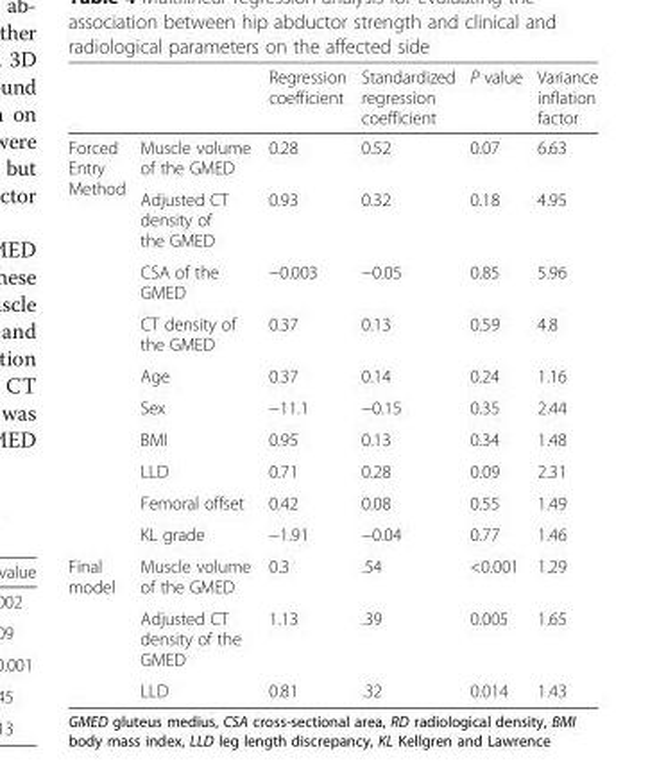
<table><thead><tr><td></td><td></td><td>Regression coefficient</td><td>Standardized regression coefficient</td><td>P value</td><td>Variance inflation factor</td></tr></thead><tbody><tr><td rowspan="10">Forced Entry Method</td><td>Muscle volume of the GMED</td><td>0.28</td><td>0.52</td><td>0.07</td><td>6.63</td></tr><tr><td>Adjusted CT density of the GMED</td><td>0.93</td><td>0.32</td><td>0.18</td><td>4.95</td></tr><tr><td>CSA of the GMED</td><td>−0.003</td><td>−0.05</td><td>0.85</td><td>5.96</td></tr><tr><td>CT density of the GMED</td><td>0.37</td><td>0.13</td><td>0.59</td><td>4.8</td></tr><tr><td>Age</td><td>0.37</td><td>0.14</td><td>0.24</td><td>1.16</td></tr><tr><td>Sex</td><td>−11.1</td><td>−0.15</td><td>0.35</td><td>2.44</td></tr><tr><td>BMI</td><td>0.95</td><td>0.13</td><td>0.34</td><td>1.48</td></tr><tr><td>LLD</td><td>0.71</td><td>0.28</td><td>0.09</td><td>2.31</td></tr><tr><td>Femoral offset</td><td>0.42</td><td>0.08</td><td>0.55</td><td>1.49</td></tr><tr><td>KL grade</td><td>−1.91</td><td>−0.04</td><td>0.77</td><td>1.46</td></tr><tr><td rowspan="3">Final model</td><td>Muscle volume of the GMED</td><td>0.3</td><td>.54</td><td>&lt;0.001</td><td>1.29</td></tr><tr><td>Adjusted CT density of the GMED</td><td>1.13</td><td>.39</td><td>0.005</td><td>1.65</td></tr><tr><td>LLD</td><td>0.81</td><td>.32</td><td>0.014</td><td>1.43</td></tr></tbody></table>